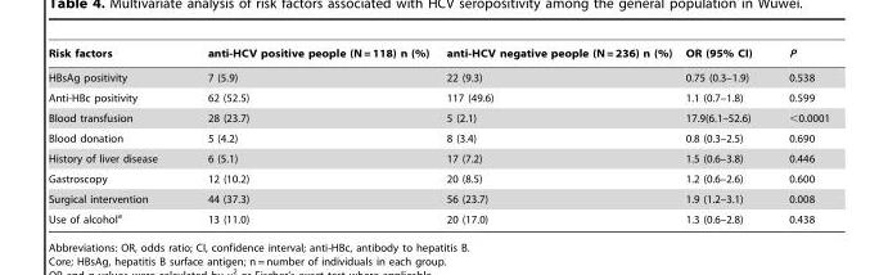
<table><thead><tr><td>Risk factors</td><td>anti-HCV positive people (N = 118) n (%)</td><td>anti-HCV negative people (N = 236) n (%)</td><td>OR (95% CI)</td><td>P</td></tr></thead><tbody><tr><td>HBsAg positivity</td><td>7 (5.9)</td><td>22 (9.3)</td><td>0.75 (0.3–1.9)</td><td>0.538</td></tr><tr><td>Anti-HBc positivity</td><td>62 (52.5)</td><td>117 (49.6)</td><td>1.1 (0.7–1.8)</td><td>0.599</td></tr><tr><td>Blood transfusion</td><td>28 (23.7)</td><td>5 (2.1)</td><td>17.9(6.1–52.6)</td><td>&lt;0.0001</td></tr><tr><td>Blood donation</td><td>5 (4.2)</td><td>8 (3.4)</td><td>0.8 (0.3–2.5)</td><td>0.690</td></tr><tr><td>History of liver disease</td><td>6 (5.1)</td><td>17 (7.2)</td><td>1.5 (0.6–3.8)</td><td>0.446</td></tr><tr><td>Gastroscopy</td><td>12 (10.2)</td><td>20 (8.5)</td><td>1.2 (0.6–2.6)</td><td>0.600</td></tr><tr><td>Surgical intervention</td><td>44 (37.3)</td><td>56 (23.7)</td><td>1.9 (1.2–3.1)</td><td>0.008</td></tr><tr><td>Use of alcohol<sup>a</sup></td><td>13 (11.0)</td><td>20 (17.0)</td><td>1.3 (0.6–2.8)</td><td>0.438</td></tr></tbody></table>